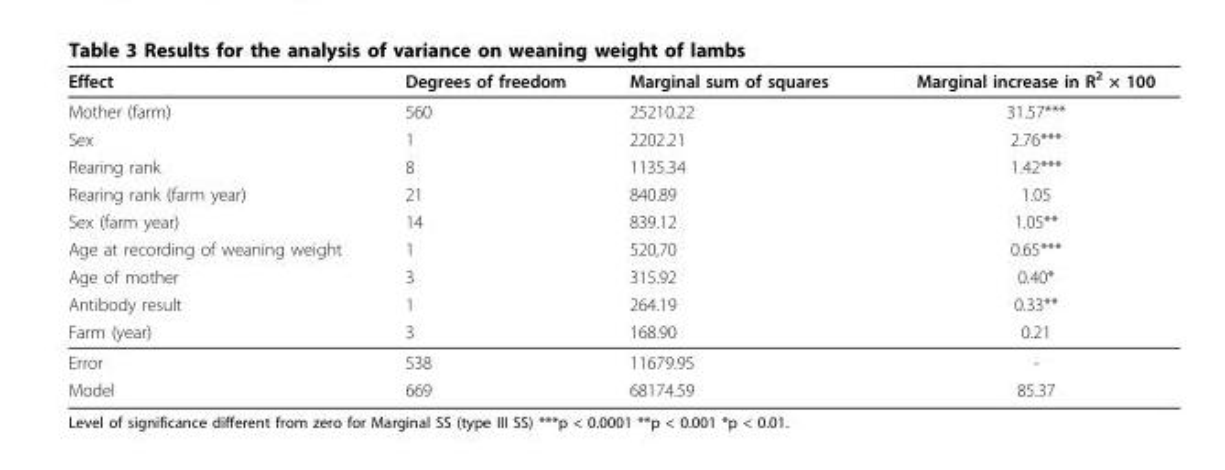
<table><thead><tr><td>Effect</td><td>Degrees of freedom</td><td>Marginal sum of squares</td><td>Marginal increase in R<sup>2</sup> × 100</td></tr></thead><tbody><tr><td>Mother (farm)</td><td>560</td><td>25210.22</td><td>31.57***</td></tr><tr><td>Sex</td><td>1</td><td>2202.21</td><td>2.76***</td></tr><tr><td>Rearing rank</td><td>8</td><td>1135.34</td><td>1.42***</td></tr><tr><td>Rearing rank (farm year)</td><td>21</td><td>840.89</td><td>1.05</td></tr><tr><td>Sex (farm year)</td><td>14</td><td>839.12</td><td>1.05**</td></tr><tr><td>Age at recording of weaning weight</td><td>1</td><td>520,70</td><td>0.65***</td></tr><tr><td>Age of mother</td><td>3</td><td>315.92</td><td>0.40*</td></tr><tr><td>Antibody result</td><td>1</td><td>264.19</td><td>0.33**</td></tr><tr><td>Farm (year)</td><td>3</td><td>168.90</td><td>0.21</td></tr><tr><td>Error</td><td>538</td><td>11679.95</td><td>-</td></tr><tr><td>Model</td><td>669</td><td>68174.59</td><td>85.37</td></tr></tbody></table>